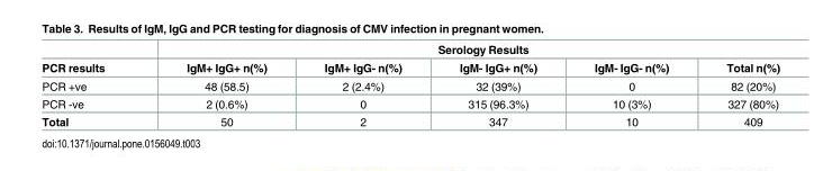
<table><thead><tr><td rowspan="2">PCR results</td><td colspan="5">Serology Results</td></tr><tr><td>IgM+ IgG+ n(%)</td><td>IgM+ IgG- n(%)</td><td>IgM- IgG+ n(%)</td><td>IgM- IgG- n(%)</td><td>Total n(%)</td></tr></thead><tbody><tr><td>PCR +ve</td><td>48 (58.5)</td><td>2 (2.4%)</td><td>32 (39%)</td><td>0</td><td>82 (20%)</td></tr><tr><td>PCR -ve</td><td>2 (0.6%)</td><td>0</td><td>315 (96.3%)</td><td>10 (3%)</td><td>327 (80%)</td></tr><tr><td>Total</td><td>50</td><td>2</td><td>347</td><td>10</td><td>409</td></tr></tbody></table>